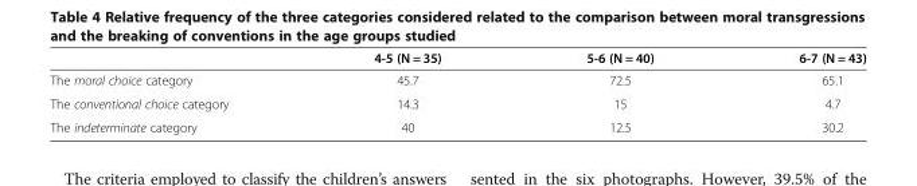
<table><thead><tr><td></td><td>4-5 (N = 35)</td><td>5-6 (N = 40)</td><td>6-7 (N = 43)</td></tr></thead><tbody><tr><td>The moral choice category</td><td>45.7</td><td>72.5</td><td>65.1</td></tr><tr><td>The conventional choice category</td><td>14.3</td><td>15</td><td>4.7</td></tr><tr><td>The indeterminate category</td><td>40</td><td>12.5</td><td>30.2</td></tr></tbody></table>